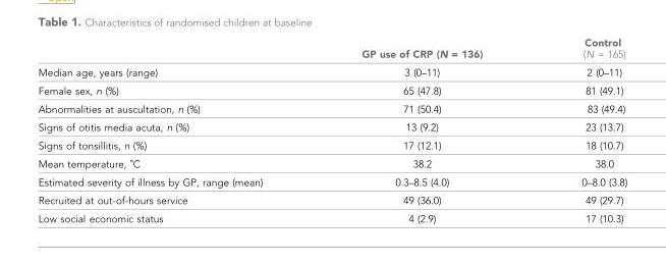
<table><thead><tr><td></td><td>GP use of CRP (N = 136)</td><td>Control (N = 165)</td></tr></thead><tbody><tr><td>Median age, years (range)</td><td>3 (0–11)</td><td>2 (0–11)</td></tr><tr><td>Female sex, n (%)</td><td>65 (47.8)</td><td>81 (49.1)</td></tr><tr><td>Abnormalities at auscultation, n (%)</td><td>71 (50.4)</td><td>83 (49.4)</td></tr><tr><td>Signs of otitis media acuta, n (%)</td><td>13 (9.2)</td><td>23 (13.7)</td></tr><tr><td>Signs of tonsillitis, n (%)</td><td>17 (12.1)</td><td>18 (10.7)</td></tr><tr><td>Mean temperature, ˚C</td><td>38.2</td><td>38.0</td></tr><tr><td>Estimated severity of illness by GP, range (mean)</td><td>0.3–8.5 (4.0)</td><td>0–8.0 (3.8)</td></tr><tr><td>Recruited at out-of-hours service</td><td>49 (36.0)</td><td>49 (29.7)</td></tr><tr><td>Low social economic status</td><td>4 (2.9)</td><td>17 (10.3)</td></tr></tbody></table>